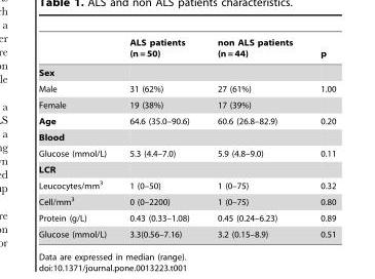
<table><thead><tr><td></td><td>ALS patients (n = 50)</td><td>non ALS patients (n = 44)</td><td>p</td></tr></thead><tbody><tr><td colspan="4">Sex</td></tr><tr><td>Male</td><td>31 (62%)</td><td>27 (61%)</td><td>1.00</td></tr><tr><td>Female</td><td>19 (38%)</td><td>17 (39%)</td><td></td></tr><tr><td>Age</td><td>64.6 (35.0–90.6)</td><td>60.6 (26.8–82.9)</td><td>0.20</td></tr><tr><td colspan="4">Blood</td></tr><tr><td>Glucose (mmol/L)</td><td>5.3 (4.4–7.0)</td><td>5.9 (4.8–9.0)</td><td>0.11</td></tr><tr><td colspan="4">LCR</td></tr><tr><td>Leucocytes/mm<sup>3</sup></td><td>1 (0–50)</td><td>1 (0–75)</td><td>0.32</td></tr><tr><td>Cell/mm<sup>3</sup></td><td>0 (0–2200)</td><td>1 (0–75)</td><td>0.80</td></tr><tr><td>Protein (g/L)</td><td>0.43 (0.33–1.08)</td><td>0.45 (0.24–6.23)</td><td>0.89</td></tr><tr><td>Glucose (mmol/L)</td><td>3.3(0.56–7.16)</td><td>3.2 (0.15–8.9)</td><td>0.51</td></tr></tbody></table>